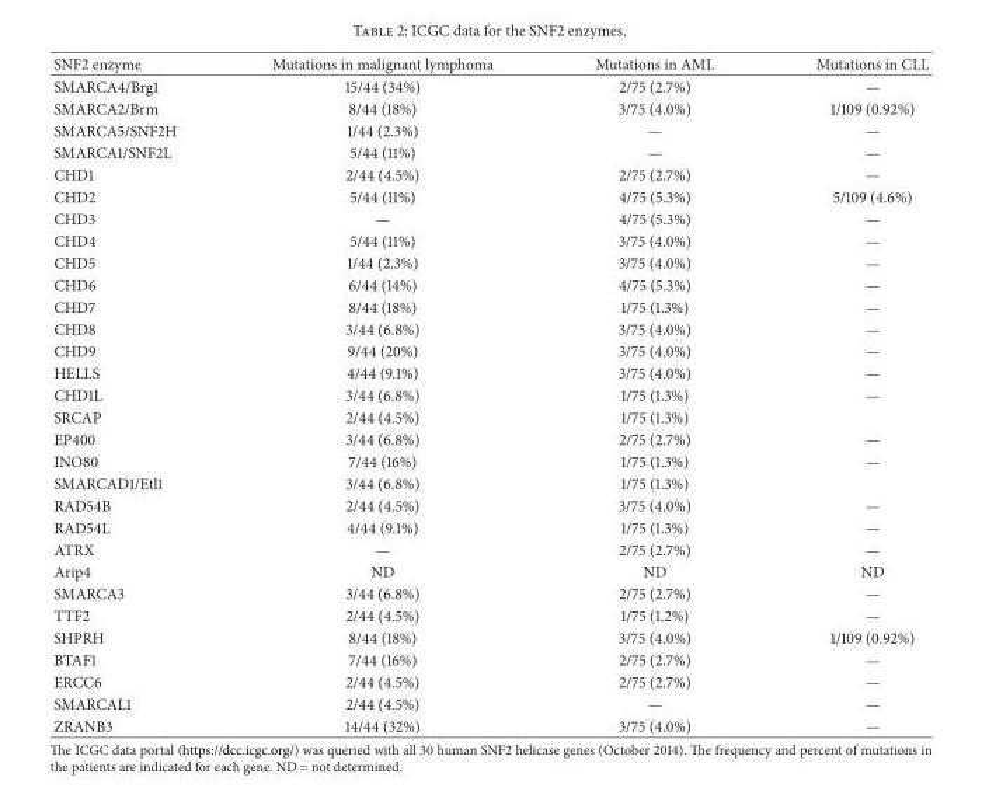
<table><thead><tr><td>SNF2 enzyme</td><td>Mutations in malignant lymphoma</td><td>Mutations in AML</td><td>Mutations in CLL</td></tr></thead><tbody><tr><td>SMARCA4/Brg1</td><td>15/44 (34%)</td><td>2/75 (2.7%)</td><td>—</td></tr><tr><td>SMARCA2/Brm</td><td>8/44 (18%)</td><td>3/75 (4.0%)</td><td>1/109 (0.92%)</td></tr><tr><td>SMARCA5/SNF2H</td><td>1/44 (2.3%)</td><td>—</td><td>—</td></tr><tr><td>SMARCA1/SNF2L</td><td>5/44 (11%)</td><td>—</td><td>—</td></tr><tr><td>CHD1</td><td>2/44 (4.5%)</td><td>2/75 (2.7%)</td><td>—</td></tr><tr><td>CHD2</td><td>5/44 (11%)</td><td>4/75 (5.3%)</td><td>5/109 (4.6%)</td></tr><tr><td>CHD3</td><td>—</td><td>4/75 (5.3%)</td><td>—</td></tr><tr><td>CHD4</td><td>5/44 (11%)</td><td>3/75 (4.0%)</td><td>—</td></tr><tr><td>CHD5</td><td>1/44 (2.3%)</td><td>3/75 (4.0%)</td><td>—</td></tr><tr><td>CHD6</td><td>6/44 (14%)</td><td>4/75 (5.3%)</td><td>—</td></tr><tr><td>CHD7</td><td>8/44 (18%)</td><td>1/75 (1.3%)</td><td>—</td></tr><tr><td>CHD8</td><td>3/44 (6.8%)</td><td>3/75 (4.0%)</td><td>—</td></tr><tr><td>CHD9</td><td>9/44 (20%)</td><td>3/75 (4.0%)</td><td>—</td></tr><tr><td>HELLS</td><td>4/44 (9.1%)</td><td>3/75 (4.0%)</td><td>—</td></tr><tr><td>CHD1L</td><td>3/44 (6.8%)</td><td>1/75 (1.3%)</td><td>—</td></tr><tr><td>SRCAP</td><td>2/44 (4.5%)</td><td>1/75 (1.3%)</td><td></td></tr><tr><td>EP400</td><td>3/44 (6.8%)</td><td>2/75 (2.7%)</td><td>—</td></tr><tr><td>INO80</td><td>7/44 (16%)</td><td>1/75 (1.3%)</td><td>—</td></tr><tr><td>SMARCAD1/Etl1</td><td>3/44 (6.8%)</td><td>1/75 (1.3%)</td><td></td></tr><tr><td>RAD54B</td><td>2/44 (4.5%)</td><td>3/75 (4.0%)</td><td>—</td></tr><tr><td>RAD54L</td><td>4/44 (9.1%)</td><td>1/75 (1.3%)</td><td>—</td></tr><tr><td>ATRX</td><td>—</td><td>2/75 (2.7%)</td><td>—</td></tr><tr><td>Arip4</td><td>ND</td><td>ND</td><td>ND</td></tr><tr><td>SMARCA3</td><td>3/44 (6.8%)</td><td>2/75 (2.7%)</td><td>—</td></tr><tr><td>TTF2</td><td>2/44 (4.5%)</td><td>1/75 (1.2%)</td><td>—</td></tr><tr><td>SHPRH</td><td>8/44 (18%)</td><td>3/75 (4.0%)</td><td>1/109 (0.92%)</td></tr><tr><td>BTAF1</td><td>7/44 (16%)</td><td>2/75 (2.7%)</td><td>—</td></tr><tr><td>ERCC6</td><td>2/44 (4.5%)</td><td>2/75 (2.7%)</td><td>—</td></tr><tr><td>SMARCAL1</td><td>2/44 (4.5%)</td><td>—</td><td>—</td></tr><tr><td>ZRANB3</td><td>14/44 (32%)</td><td>3/75 (4.0%)</td><td>—</td></tr></tbody></table>